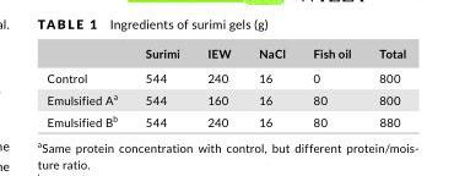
<table><thead><tr><td></td><td>Surimi</td><td>IEW</td><td>NaCl</td><td>Fish oil</td><td>Total</td></tr></thead><tbody><tr><td>Control</td><td>544</td><td>240</td><td>16</td><td>0</td><td>800</td></tr><tr><td>Emulsified A<sup>a</sup></td><td>544</td><td>160</td><td>16</td><td>80</td><td>800</td></tr><tr><td>Emulsified B<sup>b</sup></td><td>544</td><td>240</td><td>16</td><td>80</td><td>880</td></tr></tbody></table>